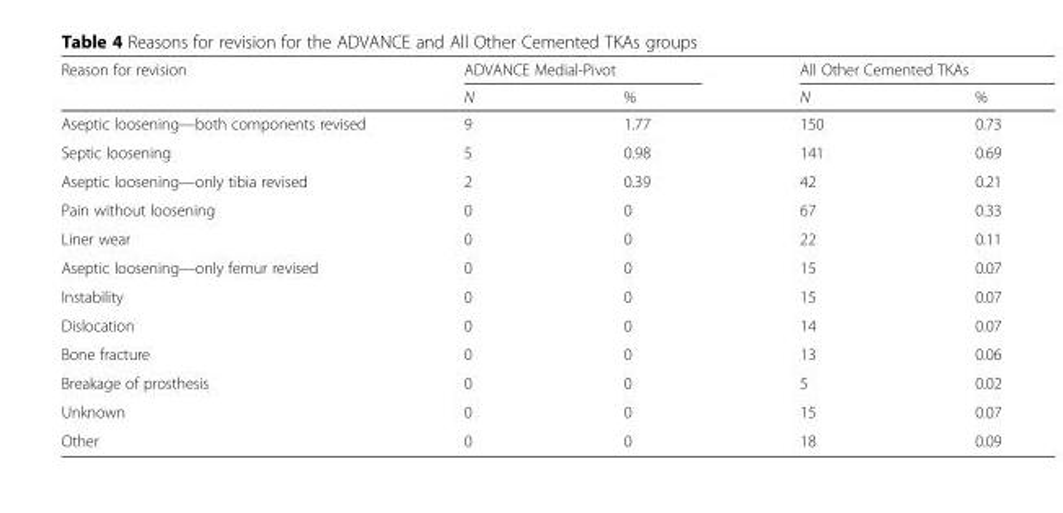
<table><thead><tr><td rowspan="2">Reason for revision</td><td colspan="2">ADVANCE Medial-Pivot</td><td colspan="2">All Other Cemented TKAs</td></tr><tr><td>N</td><td>%</td><td>N</td><td>%</td></tr></thead><tbody><tr><td>Aseptic loosening—both components revised</td><td>9</td><td>1.77</td><td>150</td><td>0.73</td></tr><tr><td>Septic loosening</td><td>5</td><td>0.98</td><td>141</td><td>0.69</td></tr><tr><td>Aseptic loosening—only tibia revised</td><td>2</td><td>0.39</td><td>42</td><td>0.21</td></tr><tr><td>Pain without loosening</td><td>0</td><td>0</td><td>67</td><td>0.33</td></tr><tr><td>Liner wear</td><td>0</td><td>0</td><td>22</td><td>0.11</td></tr><tr><td>Aseptic loosening—only femur revised</td><td>0</td><td>0</td><td>15</td><td>0.07</td></tr><tr><td>Instability</td><td>0</td><td>0</td><td>15</td><td>0.07</td></tr><tr><td>Dislocation</td><td>0</td><td>0</td><td>14</td><td>0.07</td></tr><tr><td>Bone fracture</td><td>0</td><td>0</td><td>13</td><td>0.06</td></tr><tr><td>Breakage of prosthesis</td><td>0</td><td>0</td><td>5</td><td>0.02</td></tr><tr><td>Unknown</td><td>0</td><td>0</td><td>15</td><td>0.07</td></tr><tr><td>Other</td><td>0</td><td>0</td><td>18</td><td>0.09</td></tr></tbody></table>